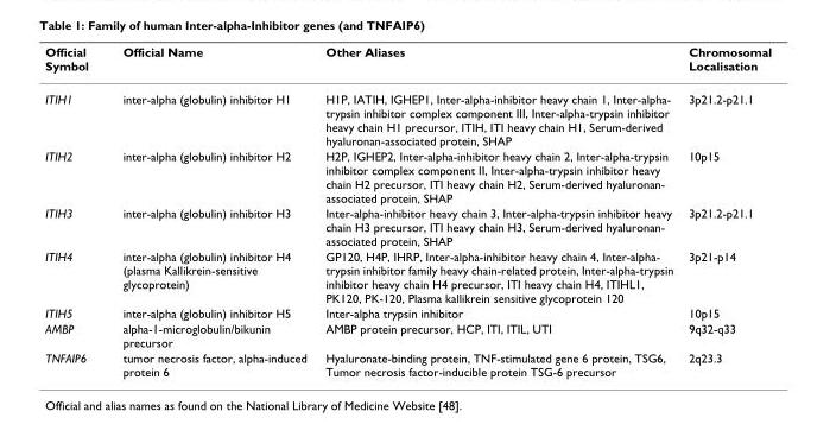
<table><thead><tr><td>Official Symbol</td><td>Official Name</td><td>Other Aliases</td><td>Chromosomal Localisation</td></tr></thead><tbody><tr><td>ITIH1</td><td>inter-alpha (globulin) inhibitor H1</td><td>H1P, IATIH, IGHEP1, Inter-alpha-inhibitor heavy chain 1, Inter-alpha- trypsin inhibitor complex component III, Inter-alpha-trypsin inhibitor heavy chain H1 precursor, ITIH, ITI heavy chain H1, Serum-derived hyaluronan-associated protein, SHAP</td><td>3p21.2-p21.1</td></tr><tr><td>ITIH2</td><td>inter-alpha (globulin) inhibitor H2</td><td>H2P, IGHEP2, Inter-alpha-inhibitor heavy chain 2, Inter-alpha-trypsin inhibitor complex component II, Inter-alpha-trypsin inhibitor heavy chain H2 precursor, ITI heavy chain H2, Serum-derived hyaluronan- associated protein, SHAP</td><td>10p15</td></tr><tr><td>ITIH3</td><td>inter-alpha (globulin) inhibitor H3</td><td>Inter-alpha-inhibitor heavy chain 3, Inter-alpha-trypsin inhibitor heavy chain H3 precursor, ITI heavy chain H3, Serum-derived hyaluronan- associated protein, SHAP</td><td>3p21.2-p21.1</td></tr><tr><td>ITIH4</td><td>inter-alpha (globulin) inhibitor H4 (plasma Kallikrein-sensitive glycoprotein)</td><td>GP120, H4P, IHRP, Inter-alpha-inhibitor heavy chain 4, Inter-alpha- trypsin inhibitor family heavy chain-related protein, Inter-alpha-trypsin inhibitor heavy chain H4 precursor, ITI heavy chain H4, ITIHL1, PK120, PK-120, Plasma kallikrein sensitive glycoprotein 120</td><td>3p21-p14</td></tr><tr><td>ITIH5</td><td>inter-alpha (globulin) inhibitor H5</td><td>Inter-alpha trypsin inhibitor</td><td>10p15</td></tr><tr><td>AMBP</td><td>alpha-1-microglobulin/bikunin precursor</td><td>AMBP protein precursor, HCP, ITI, ITIL, UTI</td><td>9q32-q33</td></tr><tr><td>TNFAIP6</td><td>tumor necrosis factor, alpha-induced protein 6</td><td>Hyaluronate-binding protein, TNF-stimulated gene 6 protein, TSG6, Tumor necrosis factor-inducible protein TSG-6 precursor</td><td>2q23.3</td></tr></tbody></table>